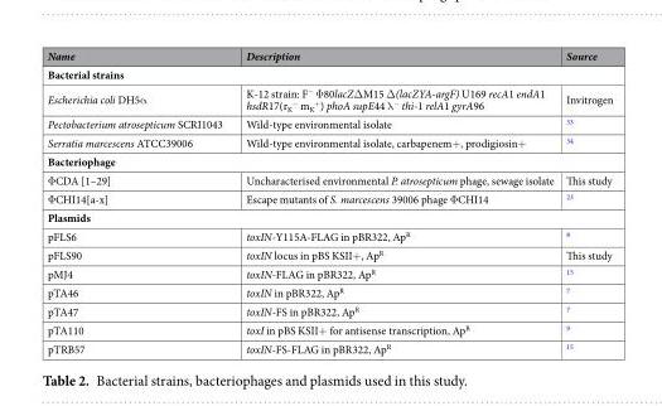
<table><thead><tr><td>Name</td><td>Description</td><td>Source</td></tr></thead><tbody><tr><td colspan="3">Bacterial strains</td></tr><tr><td>Escherichia coli DH5α</td><td>K-12 strain: F<sup>−</sup> Φ80lacZΔM15 Δ(lacZYA-argF) U169 recA1 endA1 hsdR17(r<sub>K</sub> <sup>−</sup> m<sub>K</sub> <sup>+</sup>) phoA supE44 λ<sup>−</sup> thi-1 relA1 gyrA96</td><td>Invitrogen</td></tr><tr><td>Pectobacterium atrosepticum SCRI1043</td><td>Wild-type environmental isolate</td><td><sup>33</sup></td></tr><tr><td>Serratia marcescens ATCC39006</td><td>Wild-type environmental isolate, carbapenem+, prodigiosin+</td><td><sup>34</sup></td></tr><tr><td colspan="3">Bacteriophage</td></tr><tr><td>ΦCDA [1–29]</td><td>Uncharacterised environmental P. atrosepticum phage, sewage isolate</td><td>This study</td></tr><tr><td>ΦCHI14[a-x]</td><td>Escape mutants of S. marcescens 39006 phage ΦCHI14</td><td><sup>23</sup></td></tr><tr><td colspan="3">Plasmids</td></tr><tr><td>pFLS6</td><td>toxIN-Y115A-FLAG in pBR322, Ap<sup>R</sup></td><td><sup>8</sup></td></tr><tr><td>pFLS90</td><td>toxIN locus in pBS KSII+, Ap<sup>R</sup></td><td>This study</td></tr><tr><td>pMJ4</td><td>toxIN-FLAG in pBR322, Ap<sup>R</sup></td><td><sup>15</sup></td></tr><tr><td>pTA46</td><td>toxIN in pBR322, Ap<sup>R</sup></td><td><sup>7</sup></td></tr><tr><td>pTA47</td><td>toxIN-FS in pBR322, Ap<sup>R</sup></td><td><sup>7</sup></td></tr><tr><td>pTA110</td><td>toxI in pBS KSII+ for antisense transcription, Ap<sup>R</sup></td><td><sup>9</sup></td></tr><tr><td>pTRB57</td><td>toxIN-FS-FLAG in pBR322, Ap<sup>R</sup></td><td><sup>15</sup></td></tr></tbody></table>